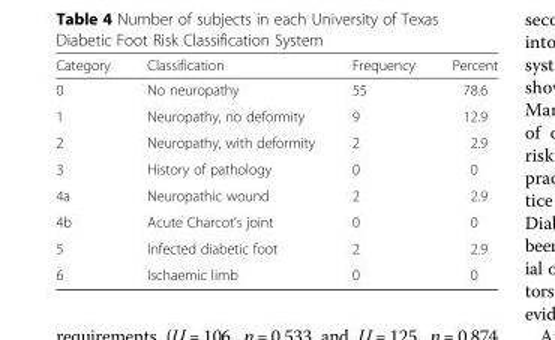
<table><thead><tr><td>Category</td><td>Classification</td><td>Frequency</td><td>Percent</td></tr></thead><tbody><tr><td>0</td><td>No neuropathy</td><td>55</td><td>78.6</td></tr><tr><td>1</td><td>Neuropathy, no deformity</td><td>9</td><td>12.9</td></tr><tr><td>2</td><td>Neuropathy, with deformity</td><td>2</td><td>2.9</td></tr><tr><td>3</td><td>History of pathology</td><td>0</td><td>0</td></tr><tr><td>4a</td><td>Neuropathic wound</td><td>2</td><td>2.9</td></tr><tr><td>4b</td><td>Acute Charcot’s joint</td><td>0</td><td>0</td></tr><tr><td>5</td><td>Infected diabetic foot</td><td>2</td><td>2.9</td></tr><tr><td>6</td><td>Ischaemic limb</td><td>0</td><td>0</td></tr></tbody></table>